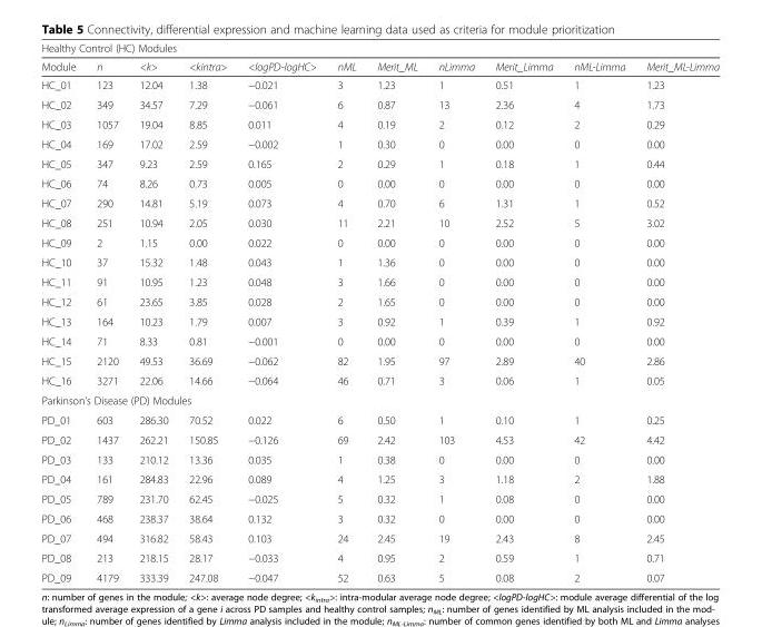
<table><thead><tr><td colspan="11">Healthy Control (HC) Modules</td></tr><tr><td>Module</td><td>n</td><td>&lt;k&gt;</td><td>&lt;kintra&gt;</td><td>&lt;logPD-logHC&gt;</td><td>nML</td><td>Merit_ML</td><td>nLimma</td><td>Merit_Limma</td><td>nML-Limma</td><td>Merit_ML-Limma</td></tr></thead><tbody><tr><td>HC_01</td><td>123</td><td>12.04</td><td>1.38</td><td>−0.021</td><td>3</td><td>1.23</td><td>1</td><td>0.51</td><td>1</td><td>1.23</td></tr><tr><td>HC_02</td><td>349</td><td>34.57</td><td>7.29</td><td>−0.061</td><td>6</td><td>0.87</td><td>13</td><td>2.36</td><td>4</td><td>1.73</td></tr><tr><td>HC_03</td><td>1057</td><td>19.04</td><td>8.85</td><td>0.011</td><td>4</td><td>0.19</td><td>2</td><td>0.12</td><td>2</td><td>0.29</td></tr><tr><td>HC_04</td><td>169</td><td>17.02</td><td>2.59</td><td>−0.002</td><td>1</td><td>0.30</td><td>0</td><td>0.00</td><td>0</td><td>0.00</td></tr><tr><td>HC_05</td><td>347</td><td>9.23</td><td>2.59</td><td>0.165</td><td>2</td><td>0.29</td><td>1</td><td>0.18</td><td>1</td><td>0.44</td></tr><tr><td>HC_06</td><td>74</td><td>8.26</td><td>0.73</td><td>0.005</td><td>0</td><td>0.00</td><td>0</td><td>0.00</td><td>0</td><td>0.00</td></tr><tr><td>HC_07</td><td>290</td><td>14.81</td><td>5.19</td><td>0.073</td><td>4</td><td>0.70</td><td>6</td><td>1.31</td><td>1</td><td>0.52</td></tr><tr><td>HC_08</td><td>251</td><td>10.94</td><td>2.05</td><td>0.030</td><td>11</td><td>2.21</td><td>10</td><td>2.52</td><td>5</td><td>3.02</td></tr><tr><td>HC_09</td><td>2</td><td>1.15</td><td>0.00</td><td>0.022</td><td>0</td><td>0.00</td><td>0</td><td>0.00</td><td>0</td><td>0.00</td></tr><tr><td>HC_10</td><td>37</td><td>15.32</td><td>1.48</td><td>0.043</td><td>1</td><td>1.36</td><td>0</td><td>0.00</td><td>0</td><td>0.00</td></tr><tr><td>HC_11</td><td>91</td><td>10.95</td><td>1.23</td><td>0.048</td><td>3</td><td>1.66</td><td>0</td><td>0.00</td><td>0</td><td>0.00</td></tr><tr><td>HC_12</td><td>61</td><td>23.65</td><td>3.85</td><td>0.028</td><td>2</td><td>1.65</td><td>0</td><td>0.00</td><td>0</td><td>0.00</td></tr><tr><td>HC_13</td><td>164</td><td>10.23</td><td>1.79</td><td>0.007</td><td>3</td><td>0.92</td><td>1</td><td>0.39</td><td>1</td><td>0.92</td></tr><tr><td>HC_14</td><td>71</td><td>8.33</td><td>0.81</td><td>−0.001</td><td>0</td><td>0.00</td><td>0</td><td>0.00</td><td>0</td><td>0.00</td></tr><tr><td>HC_15</td><td>2120</td><td>49.53</td><td>36.69</td><td>−0.062</td><td>82</td><td>1.95</td><td>97</td><td>2.89</td><td>40</td><td>2.86</td></tr><tr><td>HC_16</td><td>3271</td><td>22.06</td><td>14.66</td><td>−0.064</td><td>46</td><td>0.71</td><td>3</td><td>0.06</td><td>1</td><td>0.05</td></tr><tr><td colspan="11">Parkinson’s Disease (PD) Modules</td></tr><tr><td>PD_01</td><td>603</td><td>286.30</td><td>70.52</td><td>0.022</td><td>6</td><td>0.50</td><td>1</td><td>0.10</td><td>1</td><td>0.25</td></tr><tr><td>PD_02</td><td>1437</td><td>262.21</td><td>150.85</td><td>−0.126</td><td>69</td><td>2.42</td><td>103</td><td>4.53</td><td>42</td><td>4.42</td></tr><tr><td>PD_03</td><td>133</td><td>210.12</td><td>13.36</td><td>0.035</td><td>1</td><td>0.38</td><td>0</td><td>0.00</td><td>0</td><td>0.00</td></tr><tr><td>PD_04</td><td>161</td><td>284.83</td><td>22.96</td><td>0.089</td><td>4</td><td>1.25</td><td>3</td><td>1.18</td><td>2</td><td>1.88</td></tr><tr><td>PD_05</td><td>789</td><td>231.70</td><td>62.45</td><td>−0.025</td><td>5</td><td>0.32</td><td>1</td><td>0.08</td><td>0</td><td>0.00</td></tr><tr><td>PD_06</td><td>468</td><td>238.37</td><td>38.64</td><td>0.132</td><td>3</td><td>0.32</td><td>0</td><td>0.00</td><td>0</td><td>0.00</td></tr><tr><td>PD_07</td><td>494</td><td>316.82</td><td>58.43</td><td>0.103</td><td>24</td><td>2.45</td><td>19</td><td>2.43</td><td>8</td><td>2.45</td></tr><tr><td>PD_08</td><td>213</td><td>218.15</td><td>28.17</td><td>−0.033</td><td>4</td><td>0.95</td><td>2</td><td>0.59</td><td>1</td><td>0.71</td></tr><tr><td>PD_09</td><td>4179</td><td>333.39</td><td>247.08</td><td>−0.047</td><td>52</td><td>0.63</td><td>5</td><td>0.08</td><td>2</td><td>0.07</td></tr></tbody></table>